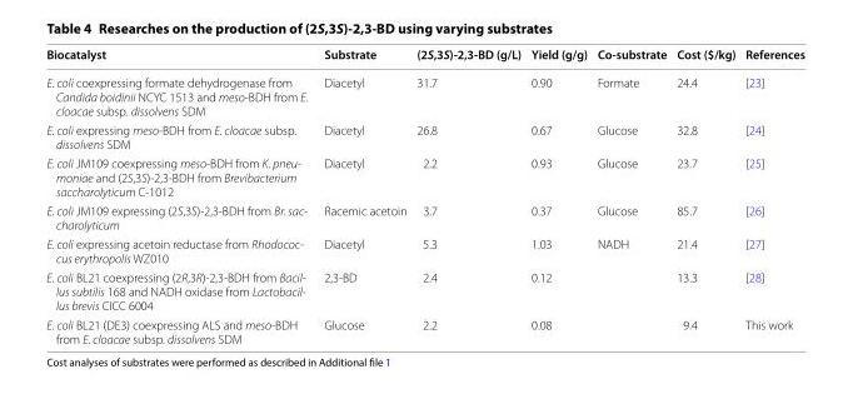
<table><thead><tr><td>Biocatalyst</td><td>Substrate</td><td>(2S,3S)‑2,3‑BD (g/L)</td><td>Yield (g/g)</td><td>Co‑substrate</td><td>Cost ($/kg)</td><td>References</td></tr></thead><tbody><tr><td>E. coli coexpressing formate dehydrogenase from Candida boidinii NCYC 1513 and meso-BDH from E. cloacae subsp. dissolvens SDM</td><td>Diacetyl</td><td>31.7</td><td>0.90</td><td>Formate</td><td>24.4</td><td>[23]</td></tr><tr><td>E. coli expressing meso-BDH from E. cloacae subsp. dissolvens SDM</td><td>Diacetyl</td><td>26.8</td><td>0.67</td><td>Glucose</td><td>32.8</td><td>[24]</td></tr><tr><td>E. coli JM109 coexpressing meso-BDH from K. pneu- moniae and (2S,3S)-2,3-BDH from Brevibacterium saccharolyticum C-1012</td><td>Diacetyl</td><td>2.2</td><td>0.93</td><td>Glucose</td><td>23.7</td><td>[25]</td></tr><tr><td>E. coli JM109 expressing (2S,3S)-2,3-BDH from Br. sac- charolyticum</td><td>Racemic acetoin</td><td>3.7</td><td>0.37</td><td>Glucose</td><td>85.7</td><td>[26]</td></tr><tr><td>E. coli expressing acetoin reductase from Rhodococ- cus erythropolis WZ010</td><td>Diacetyl</td><td>5.3</td><td>1.03</td><td>NADH</td><td>21.4</td><td>[27]</td></tr><tr><td>E. coli BL21 coexpressing (2R,3R)-2,3-BDH from Bacil- lus subtilis 168 and NADH oxidase from Lactobacil- lus brevis CICC 6004</td><td>2,3-BD</td><td>2.4</td><td>0.12</td><td></td><td>13.3</td><td>[28]</td></tr><tr><td>E. coli BL21 (DE3) coexpressing ALS and meso-BDH from E. cloacae subsp. dissolvens SDM</td><td>Glucose</td><td>2.2</td><td>0.08</td><td></td><td>9.4</td><td>This work</td></tr></tbody></table>